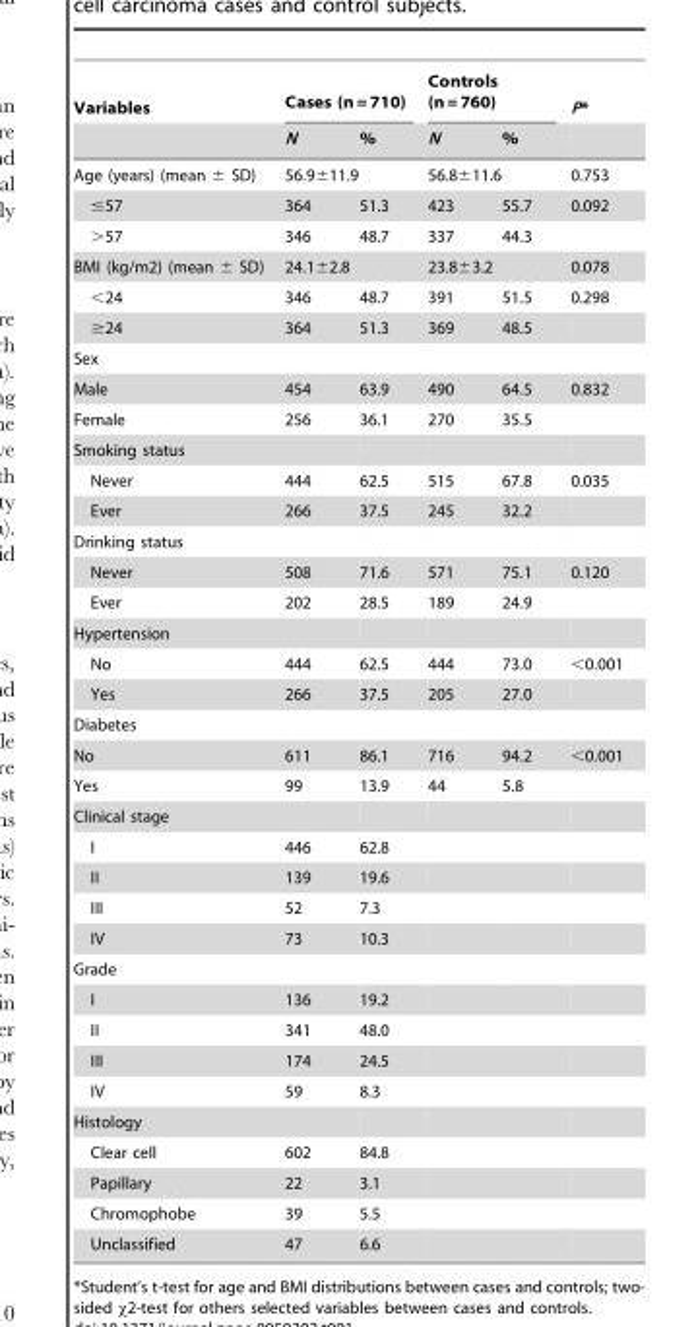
<table><thead><tr><td rowspan="2">Variables</td><td colspan="2">Cases (n = 710)</td><td colspan="2">Controls (n = 760)</td><td rowspan="2">P*</td></tr><tr><td>N</td><td>%</td><td>N</td><td>%</td></tr></thead><tbody><tr><td>Age (years) (mean ± SD)</td><td colspan="2">56.9±11.9</td><td colspan="2">56.8±11.6</td><td>0.753</td></tr><tr><td>≤57</td><td>364</td><td>51.3</td><td>423</td><td>55.7</td><td>0.092</td></tr><tr><td>&gt;57</td><td>346</td><td>48.7</td><td>337</td><td>44.3</td><td></td></tr><tr><td>BMI (kg/m2) (mean ± SD)</td><td colspan="2">24.1±2.8</td><td colspan="2">23.8±3.2</td><td>0.078</td></tr><tr><td>&lt;24</td><td>346</td><td>48.7</td><td>391</td><td>51.5</td><td>0.298</td></tr><tr><td>≥24</td><td>364</td><td>51.3</td><td>369</td><td>48.5</td><td></td></tr><tr><td colspan="6">Sex</td></tr><tr><td>Male</td><td>454</td><td>63.9</td><td>490</td><td>64.5</td><td>0.832</td></tr><tr><td>Female</td><td>256</td><td>36.1</td><td>270</td><td>35.5</td><td></td></tr><tr><td colspan="6">Smoking status</td></tr><tr><td>Never</td><td>444</td><td>62.5</td><td>515</td><td>67.8</td><td>0.035</td></tr><tr><td>Ever</td><td>266</td><td>37.5</td><td>245</td><td>32.2</td><td></td></tr><tr><td colspan="6">Drinking status</td></tr><tr><td>Never</td><td>508</td><td>71.6</td><td>571</td><td>75.1</td><td>0.120</td></tr><tr><td>Ever</td><td>202</td><td>28.5</td><td>189</td><td>24.9</td><td></td></tr><tr><td colspan="6">Hypertension</td></tr><tr><td>No</td><td>444</td><td>62.5</td><td>444</td><td>73.0</td><td>&lt;0.001</td></tr><tr><td>Yes</td><td>266</td><td>37.5</td><td>205</td><td>27.0</td><td></td></tr><tr><td colspan="6">Diabetes</td></tr><tr><td>No</td><td>611</td><td>86.1</td><td>716</td><td>94.2</td><td>&lt;0.001</td></tr><tr><td>Yes</td><td>99</td><td>13.9</td><td>44</td><td>5.8</td><td></td></tr><tr><td colspan="6">Clinical stage</td></tr><tr><td>I</td><td>446</td><td>62.8</td><td></td><td></td><td></td></tr><tr><td>II</td><td>139</td><td>19.6</td><td></td><td></td><td></td></tr><tr><td>III</td><td>52</td><td>7.3</td><td></td><td></td><td></td></tr><tr><td>IV</td><td>73</td><td>10.3</td><td></td><td></td><td></td></tr><tr><td colspan="6">Grade</td></tr><tr><td>I</td><td>136</td><td>19.2</td><td></td><td></td><td></td></tr><tr><td>II</td><td>341</td><td>48.0</td><td></td><td></td><td></td></tr><tr><td>III</td><td>174</td><td>24.5</td><td></td><td></td><td></td></tr><tr><td>IV</td><td>59</td><td>8.3</td><td></td><td></td><td></td></tr><tr><td colspan="6">Histology</td></tr><tr><td>Clear cell</td><td>602</td><td>84.8</td><td></td><td></td><td></td></tr><tr><td>Papillary</td><td>22</td><td>3.1</td><td></td><td></td><td></td></tr><tr><td>Chromophobe</td><td>39</td><td>5.5</td><td></td><td></td><td></td></tr><tr><td>Unclassified</td><td>47</td><td>6.6</td><td></td><td></td><td></td></tr></tbody></table>